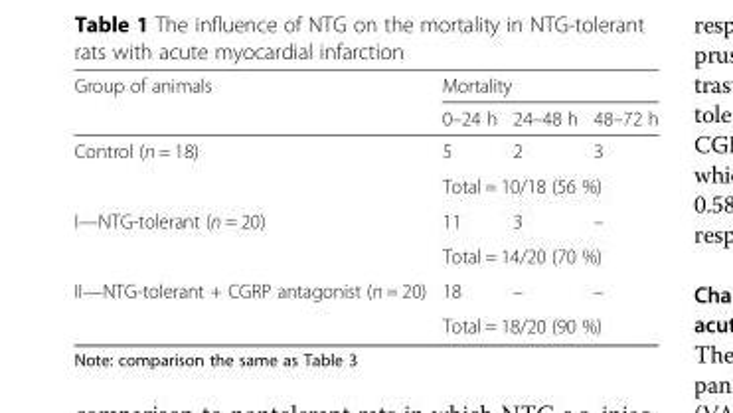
<table><thead><tr><td rowspan="2">Group of animals</td><td colspan="3">Mortality</td></tr><tr><td>0–24 h</td><td>24–48 h</td><td>48–72 h</td></tr></thead><tbody><tr><td rowspan="2">Control (n = 18)</td><td>5</td><td>2</td><td>3</td></tr><tr><td colspan="3">Total = 10/18 (56 %)</td></tr><tr><td rowspan="2">I—NTG-tolerant (n = 20)</td><td>11</td><td>3</td><td>–</td></tr><tr><td colspan="3">Total = 14/20 (70 %)</td></tr><tr><td rowspan="2">II—NTG-tolerant + CGRP antagonist (n = 20)</td><td>18</td><td>–</td><td>–</td></tr><tr><td colspan="3">Total = 18/20 (90 %)</td></tr></tbody></table>